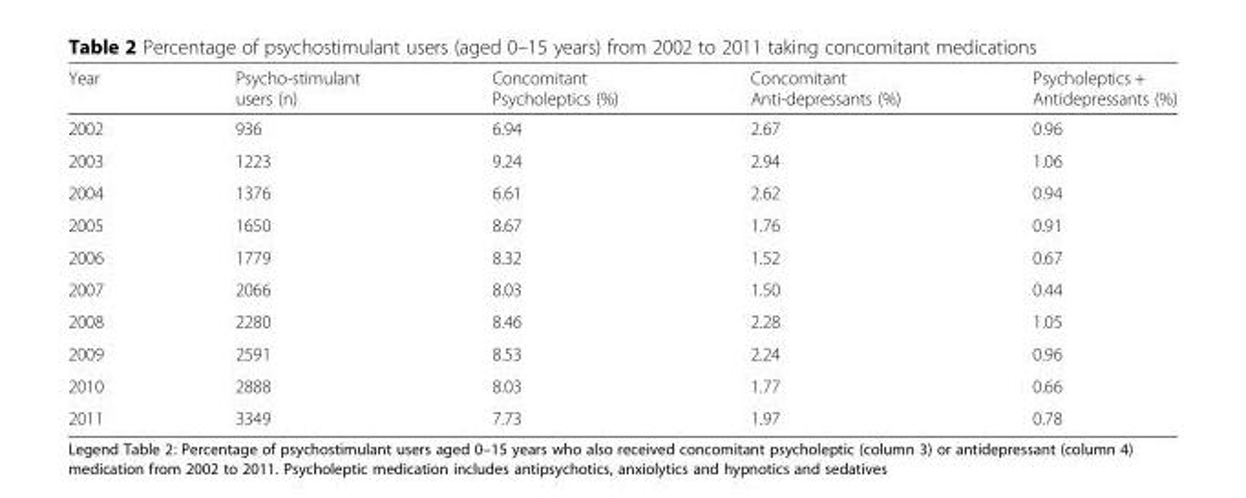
<table><thead><tr><td>Year</td><td>Psycho-stimulant users (n)</td><td>Concomitant Psycholeptics (%)</td><td>Concomitant Anti-depressants (%)</td><td>Psycholeptics + Antidepressants (%)</td></tr></thead><tbody><tr><td>2002</td><td>936</td><td>6.94</td><td>2.67</td><td>0.96</td></tr><tr><td>2003</td><td>1223</td><td>9.24</td><td>2.94</td><td>1.06</td></tr><tr><td>2004</td><td>1376</td><td>6.61</td><td>2.62</td><td>0.94</td></tr><tr><td>2005</td><td>1650</td><td>8.67</td><td>1.76</td><td>0.91</td></tr><tr><td>2006</td><td>1779</td><td>8.32</td><td>1.52</td><td>0.67</td></tr><tr><td>2007</td><td>2066</td><td>8.03</td><td>1.50</td><td>0.44</td></tr><tr><td>2008</td><td>2280</td><td>8.46</td><td>2.28</td><td>1.05</td></tr><tr><td>2009</td><td>2591</td><td>8.53</td><td>2.24</td><td>0.96</td></tr><tr><td>2010</td><td>2888</td><td>8.03</td><td>1.77</td><td>0.66</td></tr><tr><td>2011</td><td>3349</td><td>7.73</td><td>1.97</td><td>0.78</td></tr></tbody></table>